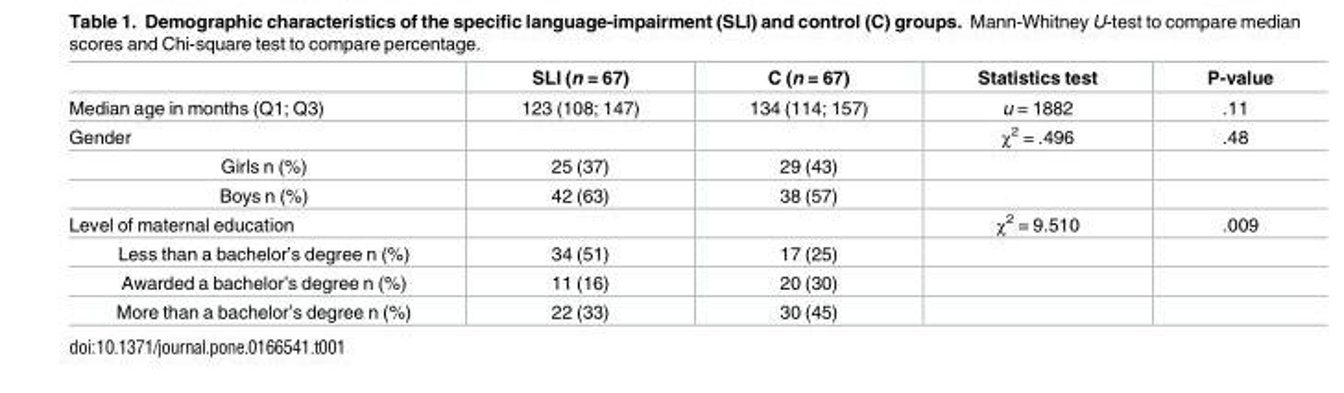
<table><thead><tr><td></td><td>SLI (n = 67)</td><td>C (n = 67)</td><td>Statistics test</td><td>P-value</td></tr></thead><tbody><tr><td>Median age in months (Q1; Q3)</td><td>123 (108; 147)</td><td>134 (114; 157)</td><td>u = 1882</td><td>.11</td></tr><tr><td>Gender</td><td></td><td></td><td>χ<sup>2</sup> = .496</td><td>.48</td></tr><tr><td>Girls n (%)</td><td>25 (37)</td><td>29 (43)</td><td></td><td></td></tr><tr><td>Boys n (%)</td><td>42 (63)</td><td>38 (57)</td><td></td><td></td></tr><tr><td>Level of maternal education</td><td></td><td></td><td>χ<sup>2</sup> = 9.510</td><td>.009</td></tr><tr><td>Less than a bachelor’s degree n (%)</td><td>34 (51)</td><td>17 (25)</td><td></td><td></td></tr><tr><td>Awarded a bachelor’s degree n (%)</td><td>11 (16)</td><td>20 (30)</td><td></td><td></td></tr><tr><td>More than a bachelor’s degree n (%)</td><td>22 (33)</td><td>30 (45)</td><td></td><td></td></tr></tbody></table>